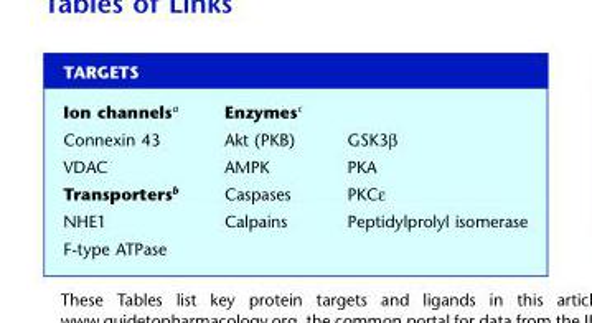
<table><thead><tr><td>TARGETS</td><td></td><td></td></tr></thead><tbody><tr><td>Ion channelsa</td><td>Enzymesc</td><td></td></tr><tr><td>Connexin 43</td><td>Akt (PKB)</td><td>GSK3β</td></tr><tr><td>VDAC</td><td>AMPK</td><td>PKA</td></tr><tr><td>Transportersb</td><td>Caspases</td><td>PKCε</td></tr><tr><td>NHE1</td><td>Calpains</td><td>Peptidylprolyl isomerase</td></tr><tr><td>F-type ATPase</td><td></td><td></td></tr></tbody></table>